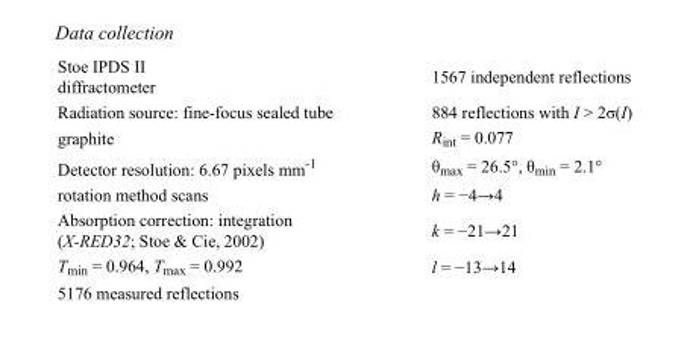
<table><tbody><tr><td>Stoe IPDS II diffractometer</td><td>1567 independent reflections</td></tr><tr><td>Radiation source: fine-focus sealed tube</td><td>884 reflections with I &gt; 2σ(I)</td></tr><tr><td>graphite</td><td>R<sub>int</sub> = 0.077</td></tr><tr><td>Detector resolution: 6.67 pixels mm<sup>-1</sup></td><td>θ<sub>max</sub> = 26.5°, θ<sub>min</sub> = 2.1°</td></tr><tr><td>rotation method scans</td><td>h = −4→4</td></tr><tr><td>Absorption correction: integration (X-RED32; Stoe &amp; Cie, 2002)</td><td>k = −21→21</td></tr><tr><td>T<sub>min</sub> = 0.964, T<sub>max</sub> = 0.992</td><td>l = −13→14</td></tr><tr><td>5176 measured reflections</td><td></td></tr></tbody></table>